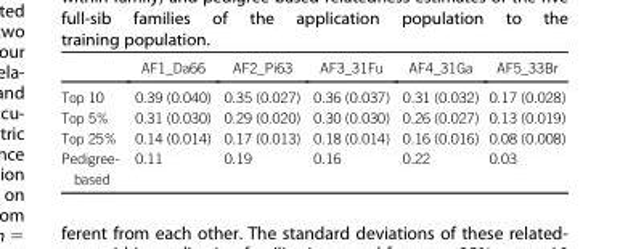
<table><thead><tr><td></td><td>AF1_Da66</td><td>AF2_Pi63</td><td>AF3_31Fu</td><td>AF4_31Ga</td><td>AF5_33Br</td></tr></thead><tbody><tr><td>Top 10</td><td>0.39 (0.040)</td><td>0.35 (0.027)</td><td>0.36 (0.037)</td><td>0.31 (0.032)</td><td>0.17 (0.028)</td></tr><tr><td>Top 5%</td><td>0.31 (0.030)</td><td>0.29 (0.020)</td><td>0.30 (0.030)</td><td>0.26 (0.027)</td><td>0.13 (0.019)</td></tr><tr><td>Top 25%</td><td>0.14 (0.014)</td><td>0.17 (0.013)</td><td>0.18 (0.014)</td><td>0.16 (0.016)</td><td>0.08 (0.008)</td></tr><tr><td>Pedigree- based</td><td>0.11</td><td>0.19</td><td>0.16</td><td>0.22</td><td>0.03</td></tr></tbody></table>